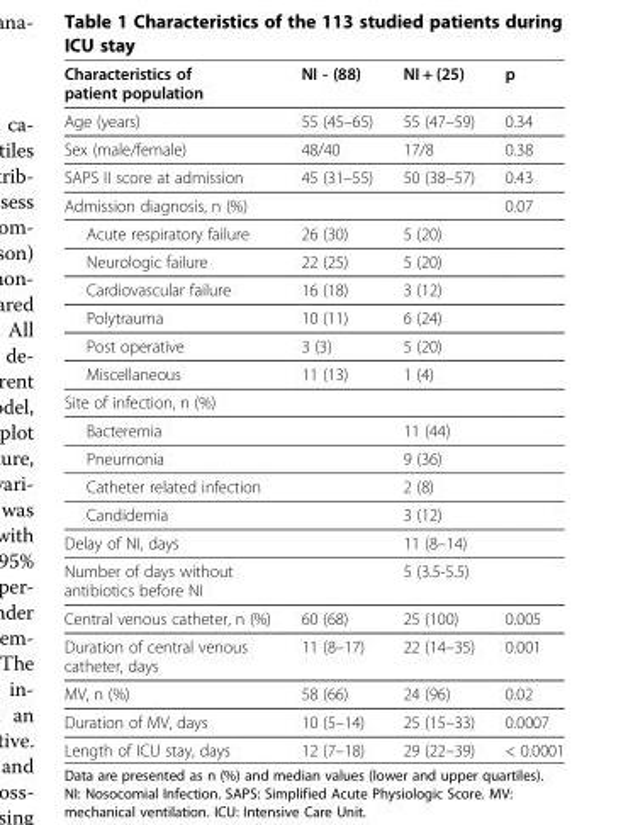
<table><thead><tr><td>Characteristics of patient population</td><td>NI - (88)</td><td>NI + (25)</td><td>p</td></tr></thead><tbody><tr><td>Age (years)</td><td>55 (45–65)</td><td>55 (47–59)</td><td>0.34</td></tr><tr><td>Sex (male/female)</td><td>48/40</td><td>17/8</td><td>0.38</td></tr><tr><td>SAPS II score at admission</td><td>45 (31–55)</td><td>50 (38–57)</td><td>0.43</td></tr><tr><td>Admission diagnosis, n (%)</td><td></td><td></td><td>0.07</td></tr><tr><td>Acute respiratory failure</td><td>26 (30)</td><td>5 (20)</td><td></td></tr><tr><td>Neurologic failure</td><td>22 (25)</td><td>5 (20)</td><td></td></tr><tr><td>Cardiovascular failure</td><td>16 (18)</td><td>3 (12)</td><td></td></tr><tr><td>Polytrauma</td><td>10 (11)</td><td>6 (24)</td><td></td></tr><tr><td>Post operative</td><td>3 (3)</td><td>5 (20)</td><td></td></tr><tr><td>Miscellaneous</td><td>11 (13)</td><td>1 (4)</td><td></td></tr><tr><td colspan="4">Site of infection, n (%)</td></tr><tr><td>Bacteremia</td><td></td><td>11 (44)</td><td></td></tr><tr><td>Pneumonia</td><td></td><td>9 (36)</td><td></td></tr><tr><td>Catheter related infection</td><td></td><td>2 (8)</td><td></td></tr><tr><td>Candidemia</td><td></td><td>3 (12)</td><td></td></tr><tr><td>Delay of NI, days</td><td></td><td>11 (8–14)</td><td></td></tr><tr><td>Number of days without antibiotics before NI</td><td></td><td>5 (3.5-5.5)</td><td></td></tr><tr><td>Central venous catheter, n (%)</td><td>60 (68)</td><td>25 (100)</td><td>0.005</td></tr><tr><td>Duration of central venous catheter, days</td><td>11 (8–17)</td><td>22 (14–35)</td><td>0.001</td></tr><tr><td>MV, n (%)</td><td>58 (66)</td><td>24 (96)</td><td>0.02</td></tr><tr><td>Duration of MV, days</td><td>10 (5–14)</td><td>25 (15–33)</td><td>0.0007</td></tr><tr><td>Length of ICU stay, days</td><td>12 (7–18)</td><td>29 (22–39)</td><td>&lt; 0.0001</td></tr></tbody></table>